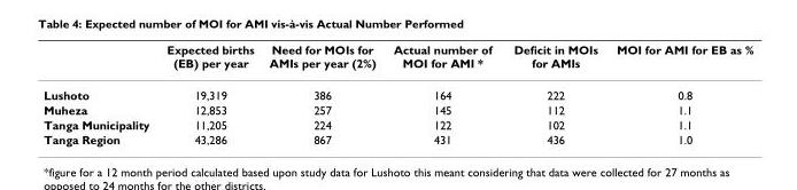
<table><thead><tr><td></td><td>Expected births (EB) per year</td><td>Need for MOIs for AMIs per year (2%)</td><td>Actual number of MOI for AMI *</td><td>Deficit in MOIs for AMIs</td><td>MOI for AMI for EB as %</td></tr></thead><tbody><tr><td>Lushoto</td><td>19,319</td><td>386</td><td>164</td><td>222</td><td>0.8</td></tr><tr><td>Muheza</td><td>12,853</td><td>257</td><td>145</td><td>112</td><td>1.1</td></tr><tr><td>Tanga Municipality</td><td>11,205</td><td>224</td><td>122</td><td>102</td><td>1.1</td></tr><tr><td>Tanga Region</td><td>43,286</td><td>867</td><td>431</td><td>436</td><td>1.0</td></tr></tbody></table>